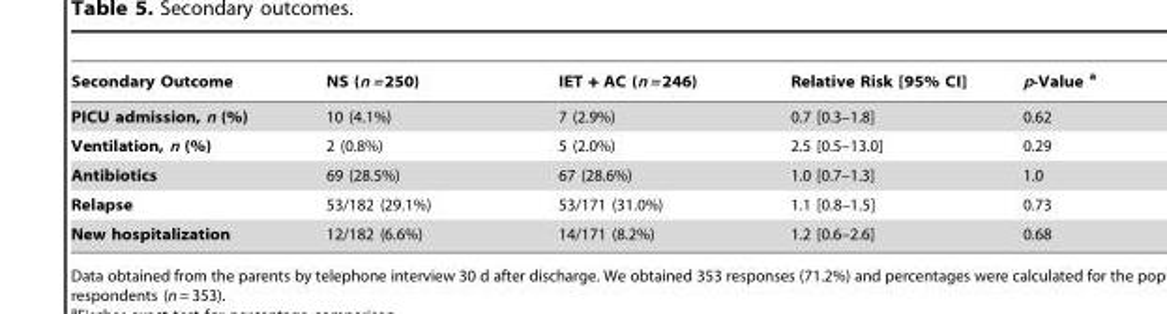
<table><thead><tr><td>Secondary Outcome</td><td>NS (n = 250)</td><td>IET + AC (n = 246)</td><td>Relative Risk [95% CI]</td><td>p-Value a</td></tr></thead><tbody><tr><td>PICU admission, n (%)</td><td>10 (4.1%)</td><td>7 (2.9%)</td><td>0.7 [0.3–1.8]</td><td>0.62</td></tr><tr><td>Ventilation, n (%)</td><td>2 (0.8%)</td><td>5 (2.0%)</td><td>2.5 [0.5–13.0]</td><td>0.29</td></tr><tr><td>Antibiotics</td><td>69 (28.5%)</td><td>67 (28.6%)</td><td>1.0 [0.7–1.3]</td><td>1.0</td></tr><tr><td>Relapse</td><td>53/182 (29.1%)</td><td>53/171 (31.0%)</td><td>1.1 [0.8–1.5]</td><td>0.73</td></tr><tr><td>New hospitalization</td><td>12/182 (6.6%)</td><td>14/171 (8.2%)</td><td>1.2 [0.6–2.6]</td><td>0.68</td></tr></tbody></table>